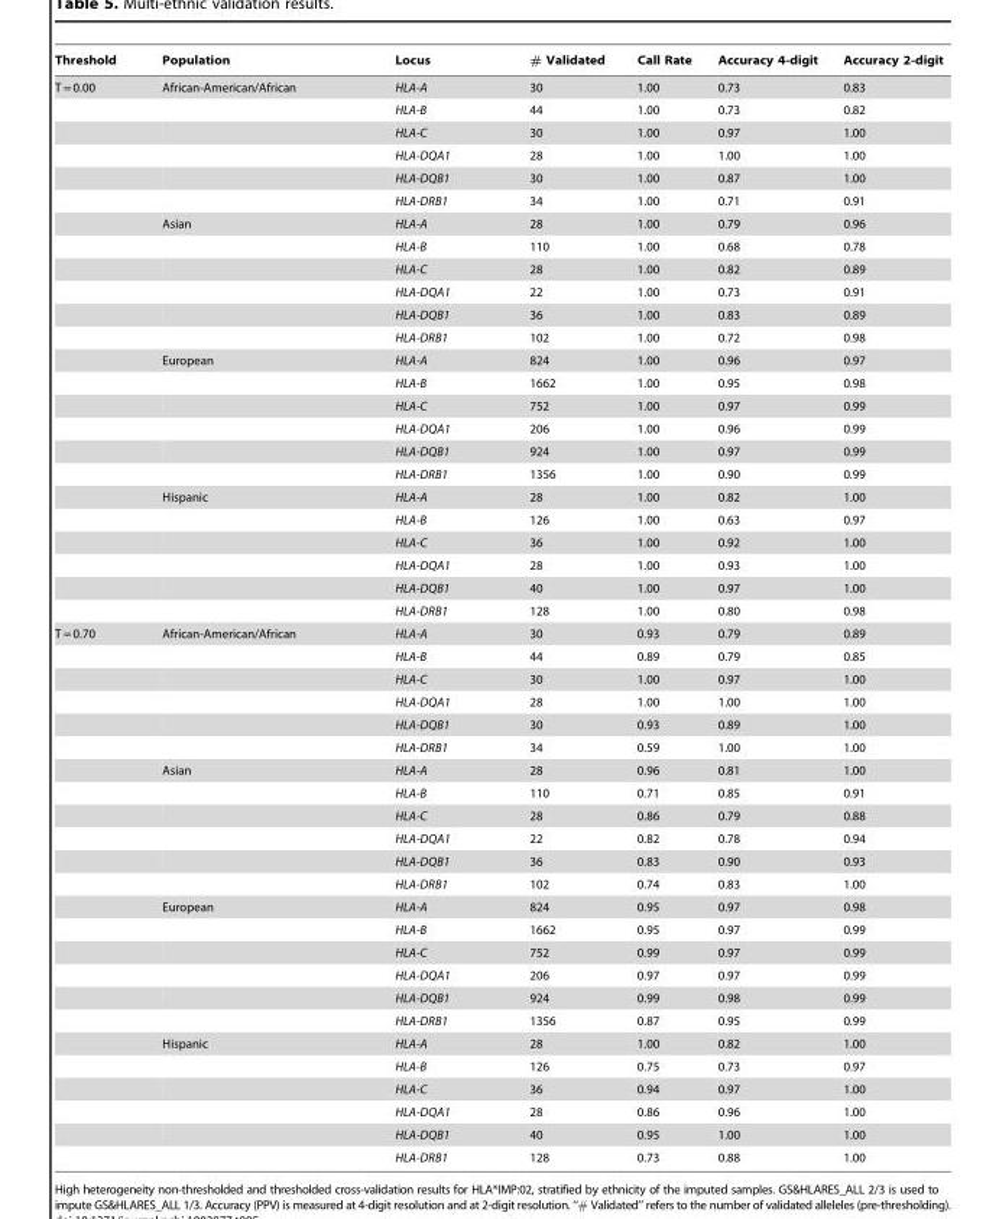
<table><thead><tr><td>Threshold</td><td>Population</td><td>Locus</td><td># Validated</td><td>Call Rate</td><td>Accuracy 4-digit</td><td>Accuracy 2-digit</td></tr></thead><tbody><tr><td rowspan="24">T = 0.00</td><td>African-American/African</td><td>HLA-A</td><td>30</td><td>1.00</td><td>0.73</td><td>0.83</td></tr><tr><td></td><td>HLA-B</td><td>44</td><td>1.00</td><td>0.73</td><td>0.82</td></tr><tr><td></td><td>HLA-C</td><td>30</td><td>1.00</td><td>0.97</td><td>1.00</td></tr><tr><td></td><td>HLA-DQA1</td><td>28</td><td>1.00</td><td>1.00</td><td>1.00</td></tr><tr><td></td><td>HLA-DQB1</td><td>30</td><td>1.00</td><td>0.87</td><td>1.00</td></tr><tr><td></td><td>HLA-DRB1</td><td>34</td><td>1.00</td><td>0.71</td><td>0.91</td></tr><tr><td>Asian</td><td>HLA-A</td><td>28</td><td>1.00</td><td>0.79</td><td>0.96</td></tr><tr><td></td><td>HLA-B</td><td>110</td><td>1.00</td><td>0.68</td><td>0.78</td></tr><tr><td></td><td>HLA-C</td><td>28</td><td>1.00</td><td>0.82</td><td>0.89</td></tr><tr><td></td><td>HLA-DQA1</td><td>22</td><td>1.00</td><td>0.73</td><td>0.91</td></tr><tr><td></td><td>HLA-DQB1</td><td>36</td><td>1.00</td><td>0.83</td><td>0.89</td></tr><tr><td></td><td>HLA-DRB1</td><td>102</td><td>1.00</td><td>0.72</td><td>0.98</td></tr><tr><td>European</td><td>HLA-A</td><td>824</td><td>1.00</td><td>0.96</td><td>0.97</td></tr><tr><td></td><td>HLA-B</td><td>1662</td><td>1.00</td><td>0.95</td><td>0.98</td></tr><tr><td></td><td>HLA-C</td><td>752</td><td>1.00</td><td>0.97</td><td>0.99</td></tr><tr><td></td><td>HLA-DQA1</td><td>206</td><td>1.00</td><td>0.96</td><td>0.99</td></tr><tr><td></td><td>HLA-DQB1</td><td>924</td><td>1.00</td><td>0.97</td><td>0.99</td></tr><tr><td></td><td>HLA-DRB1</td><td>1356</td><td>1.00</td><td>0.90</td><td>0.99</td></tr><tr><td>Hispanic</td><td>HLA-A</td><td>28</td><td>1.00</td><td>0.82</td><td>1.00</td></tr><tr><td></td><td>HLA-B</td><td>126</td><td>1.00</td><td>0.63</td><td>0.97</td></tr><tr><td></td><td>HLA-C</td><td>36</td><td>1.00</td><td>0.92</td><td>1.00</td></tr><tr><td></td><td>HLA-DQA1</td><td>28</td><td>1.00</td><td>0.93</td><td>1.00</td></tr><tr><td></td><td>HLA-DQB1</td><td>40</td><td>1.00</td><td>0.97</td><td>1.00</td></tr><tr><td></td><td>HLA-DRB1</td><td>128</td><td>1.00</td><td>0.80</td><td>0.98</td></tr><tr><td rowspan="24">T = 0.70</td><td>African-American/African</td><td>HLA-A</td><td>30</td><td>0.93</td><td>0.79</td><td>0.89</td></tr><tr><td></td><td>HLA-B</td><td>44</td><td>0.89</td><td>0.79</td><td>0.85</td></tr><tr><td></td><td>HLA-C</td><td>30</td><td>1.00</td><td>0.97</td><td>1.00</td></tr><tr><td></td><td>HLA-DQA1</td><td>28</td><td>1.00</td><td>1.00</td><td>1.00</td></tr><tr><td></td><td>HLA-DQB1</td><td>30</td><td>0.93</td><td>0.89</td><td>1.00</td></tr><tr><td></td><td>HLA-DRB1</td><td>34</td><td>0.59</td><td>1.00</td><td>1.00</td></tr><tr><td>Asian</td><td>HLA-A</td><td>28</td><td>0.96</td><td>0.81</td><td>1.00</td></tr><tr><td></td><td>HLA-B</td><td>110</td><td>0.71</td><td>0.85</td><td>0.91</td></tr><tr><td></td><td>HLA-C</td><td>28</td><td>0.86</td><td>0.79</td><td>0.88</td></tr><tr><td></td><td>HLA-DQA1</td><td>22</td><td>0.82</td><td>0.78</td><td>0.94</td></tr><tr><td></td><td>HLA-DQB1</td><td>36</td><td>0.83</td><td>0.90</td><td>0.93</td></tr><tr><td></td><td>HLA-DRB1</td><td>102</td><td>0.74</td><td>0.83</td><td>1.00</td></tr><tr><td>European</td><td>HLA-A</td><td>824</td><td>0.95</td><td>0.97</td><td>0.98</td></tr><tr><td></td><td>HLA-B</td><td>1662</td><td>0.95</td><td>0.97</td><td>0.99</td></tr><tr><td></td><td>HLA-C</td><td>752</td><td>0.99</td><td>0.97</td><td>0.99</td></tr><tr><td></td><td>HLA-DQA1</td><td>206</td><td>0.97</td><td>0.97</td><td>0.99</td></tr><tr><td></td><td>HLA-DQB1</td><td>924</td><td>0.99</td><td>0.98</td><td>0.99</td></tr><tr><td></td><td>HLA-DRB1</td><td>1356</td><td>0.87</td><td>0.95</td><td>0.99</td></tr><tr><td>Hispanic</td><td>HLA-A</td><td>28</td><td>1.00</td><td>0.82</td><td>1.00</td></tr><tr><td></td><td>HLA-B</td><td>126</td><td>0.75</td><td>0.73</td><td>0.97</td></tr><tr><td></td><td>HLA-C</td><td>36</td><td>0.94</td><td>0.97</td><td>1.00</td></tr><tr><td></td><td>HLA-DQA1</td><td>28</td><td>0.86</td><td>0.96</td><td>1.00</td></tr><tr><td></td><td>HLA-DQB1</td><td>40</td><td>0.95</td><td>1.00</td><td>1.00</td></tr><tr><td></td><td>HLA-DRB1</td><td>128</td><td>0.73</td><td>0.88</td><td>1.00</td></tr></tbody></table>